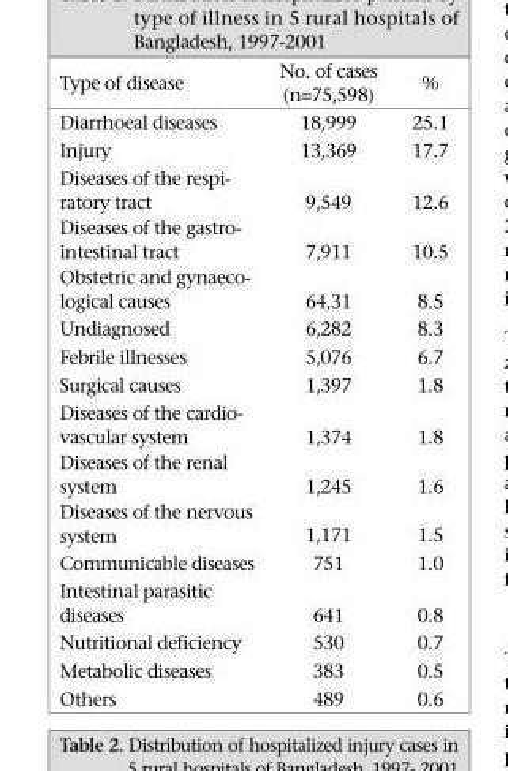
<table><thead><tr><td>Type of disease</td><td>No. of cases (n=75,598)</td><td>%</td></tr></thead><tbody><tr><td>Diarrhoeal diseases</td><td>18,999</td><td>25.1</td></tr><tr><td>Injury</td><td>13,369</td><td>17.7</td></tr><tr><td>Diseases of the respi- ratory tract</td><td>9,549</td><td>12.6</td></tr><tr><td>Diseases of the gastro- intestinal tract</td><td>7,911</td><td>10.5</td></tr><tr><td>Obstetric and gynaeco- logical causes</td><td>64,31</td><td>8.5</td></tr><tr><td>Undiagnosed</td><td>6,282</td><td>8.3</td></tr><tr><td>Febrile illnesses</td><td>5,076</td><td>6.7</td></tr><tr><td>Surgical causes</td><td>1,397</td><td>1.8</td></tr><tr><td>Diseases of the cardio- vascular system</td><td>1,374</td><td>1.8</td></tr><tr><td>Diseases of the renal system</td><td>1,245</td><td>1.6</td></tr><tr><td>Diseases of the nervous system</td><td>1,171</td><td>1.5</td></tr><tr><td>Communicable diseases</td><td>751</td><td>1.0</td></tr><tr><td>Intestinal parasitic diseases</td><td>641</td><td>0.8</td></tr><tr><td>Nutritional deficiency</td><td>530</td><td>0.7</td></tr><tr><td>Metabolic diseases</td><td>383</td><td>0.5</td></tr><tr><td>Others</td><td>489</td><td>0.6</td></tr></tbody></table>